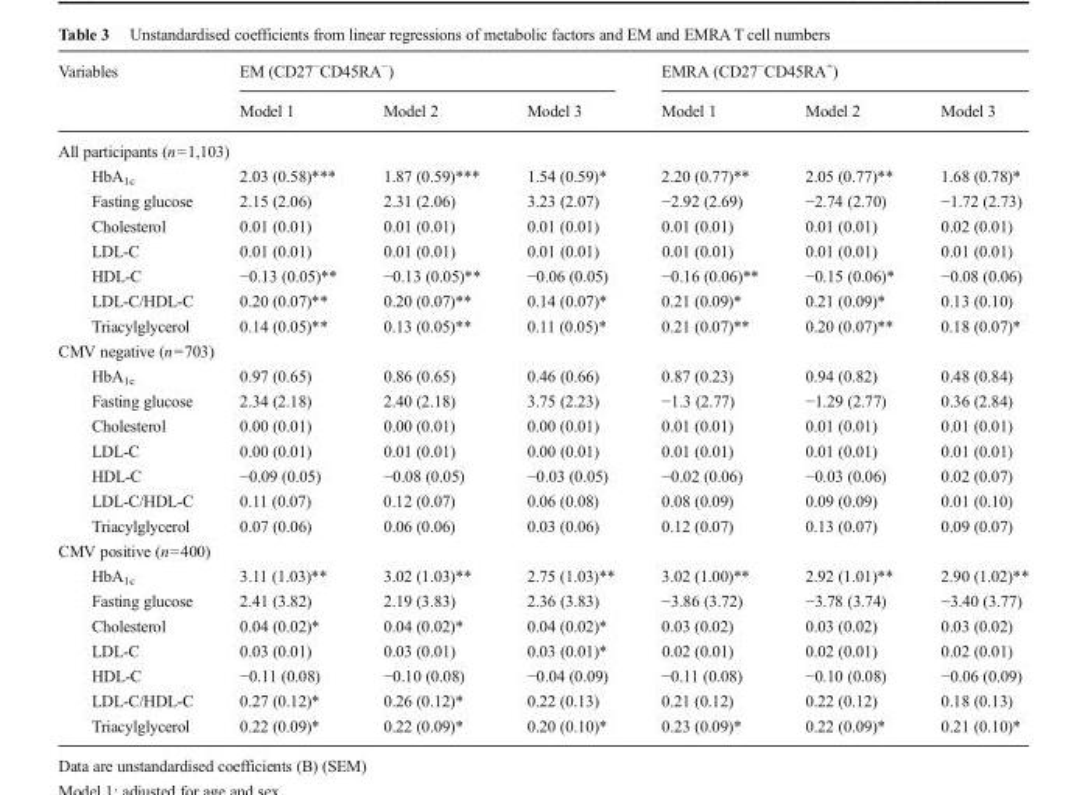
<table><thead><tr><td rowspan="2">Variables</td><td colspan="3">EM (CD27<sup>−</sup>CD45RA<sup>−</sup>)</td><td colspan="3">EMRA (CD27<sup>−</sup>CD45RA<sup>+</sup>)</td></tr><tr><td>Model 1</td><td>Model 2</td><td>Model 3</td><td>Model 1</td><td>Model 2</td><td>Model 3</td></tr></thead><tbody><tr><td colspan="7">All participants (n=1,103)</td></tr><tr><td>HbA<sub>1c</sub></td><td>2.03 (0.58)***</td><td>1.87 (0.59)***</td><td>1.54 (0.59)*</td><td>2.20 (0.77)**</td><td>2.05 (0.77)**</td><td>1.68 (0.78)*</td></tr><tr><td>Fasting glucose</td><td>2.15 (2.06)</td><td>2.31 (2.06)</td><td>3.23 (2.07)</td><td>−2.92 (2.69)</td><td>−2.74 (2.70)</td><td>−1.72 (2.73)</td></tr><tr><td>Cholesterol</td><td>0.01 (0.01)</td><td>0.01 (0.01)</td><td>0.01 (0.01)</td><td>0.01 (0.01)</td><td>0.01 (0.01)</td><td>0.02 (0.01)</td></tr><tr><td>LDL-C</td><td>0.01 (0.01)</td><td>0.01 (0.01)</td><td>0.01 (0.01)</td><td>0.01 (0.01)</td><td>0.01 (0.01)</td><td>0.01 (0.01)</td></tr><tr><td>HDL-C</td><td>−0.13 (0.05)**</td><td>−0.13 (0.05)**</td><td>−0.06 (0.05)</td><td>−0.16 (0.06)**</td><td>−0.15 (0.06)*</td><td>−0.08 (0.06)</td></tr><tr><td>LDL-C/HDL-C</td><td>0.20 (0.07)**</td><td>0.20 (0.07)**</td><td>0.14 (0.07)*</td><td>0.21 (0.09)*</td><td>0.21 (0.09)*</td><td>0.13 (0.10)</td></tr><tr><td>Triacylglycerol</td><td>0.14 (0.05)**</td><td>0.13 (0.05)**</td><td>0.11 (0.05)*</td><td>0.21 (0.07)**</td><td>0.20 (0.07)**</td><td>0.18 (0.07)*</td></tr><tr><td colspan="7">CMV negative (n=703)</td></tr><tr><td>HbA<sub>1c</sub></td><td>0.97 (0.65)</td><td>0.86 (0.65)</td><td>0.46 (0.66)</td><td>0.87 (0.23)</td><td>0.94 (0.82)</td><td>0.48 (0.84)</td></tr><tr><td>Fasting glucose</td><td>2.34 (2.18)</td><td>2.40 (2.18)</td><td>3.75 (2.23)</td><td>−1.3 (2.77)</td><td>−1.29 (2.77)</td><td>0.36 (2.84)</td></tr><tr><td>Cholesterol</td><td>0.00 (0.01)</td><td>0.00 (0.01)</td><td>0.00 (0.01)</td><td>0.01 (0.01)</td><td>0.01 (0.01)</td><td>0.01 (0.01)</td></tr><tr><td>LDL-C</td><td>0.00 (0.01)</td><td>0.01 (0.01)</td><td>0.00 (0.01)</td><td>0.01 (0.01)</td><td>0.01 (0.01)</td><td>0.01 (0.01)</td></tr><tr><td>HDL-C</td><td>−0.09 (0.05)</td><td>−0.08 (0.05)</td><td>−0.03 (0.05)</td><td>−0.02 (0.06)</td><td>−0.03 (0.06)</td><td>0.02 (0.07)</td></tr><tr><td>LDL-C/HDL-C</td><td>0.11 (0.07)</td><td>0.12 (0.07)</td><td>0.06 (0.08)</td><td>0.08 (0.09)</td><td>0.09 (0.09)</td><td>0.01 (0.10)</td></tr><tr><td>Triacylglycerol</td><td>0.07 (0.06)</td><td>0.06 (0.06)</td><td>0.03 (0.06)</td><td>0.12 (0.07)</td><td>0.13 (0.07)</td><td>0.09 (0.07)</td></tr><tr><td colspan="7">CMV positive (n=400)</td></tr><tr><td>HbA<sub>1c</sub></td><td>3.11 (1.03)**</td><td>3.02 (1.03)**</td><td>2.75 (1.03)**</td><td>3.02 (1.00)**</td><td>2.92 (1.01)**</td><td>2.90 (1.02)**</td></tr><tr><td>Fasting glucose</td><td>2.41 (3.82)</td><td>2.19 (3.83)</td><td>2.36 (3.83)</td><td>−3.86 (3.72)</td><td>−3.78 (3.74)</td><td>−3.40 (3.77)</td></tr><tr><td>Cholesterol</td><td>0.04 (0.02)*</td><td>0.04 (0.02)*</td><td>0.04 (0.02)*</td><td>0.03 (0.02)</td><td>0.03 (0.02)</td><td>0.03 (0.02)</td></tr><tr><td>LDL-C</td><td>0.03 (0.01)</td><td>0.03 (0.01)</td><td>0.03 (0.01)*</td><td>0.02 (0.01)</td><td>0.02 (0.01)</td><td>0.02 (0.01)</td></tr><tr><td>HDL-C</td><td>−0.11 (0.08)</td><td>−0.10 (0.08)</td><td>−0.04 (0.09)</td><td>−0.11 (0.08)</td><td>−0.10 (0.08)</td><td>−0.06 (0.09)</td></tr><tr><td>LDL-C/HDL-C</td><td>0.27 (0.12)*</td><td>0.26 (0.12)*</td><td>0.22 (0.13)</td><td>0.21 (0.12)</td><td>0.22 (0.12)</td><td>0.18 (0.13)</td></tr><tr><td>Triacylglycerol</td><td>0.22 (0.09)*</td><td>0.22 (0.09)*</td><td>0.20 (0.10)*</td><td>0.23 (0.09)*</td><td>0.22 (0.09)*</td><td>0.21 (0.10)*</td></tr></tbody></table>